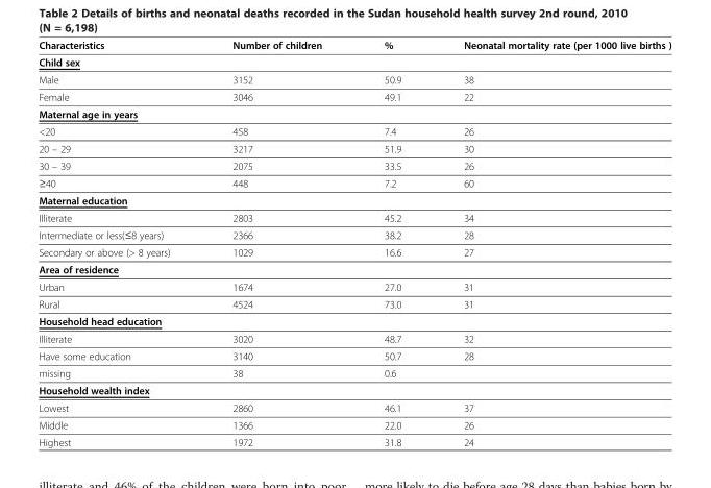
<table><thead><tr><td>Characteristics</td><td>Number of children</td><td>%</td><td>Neonatal mortality rate (per 1000 live births )</td></tr></thead><tbody><tr><td colspan="4">Child sex</td></tr><tr><td>Male</td><td>3152</td><td>50.9</td><td>38</td></tr><tr><td>Female</td><td>3046</td><td>49.1</td><td>22</td></tr><tr><td colspan="4">Maternal age in years</td></tr><tr><td>&lt;20</td><td>458</td><td>7.4</td><td>26</td></tr><tr><td>20 – 29</td><td>3217</td><td>51.9</td><td>30</td></tr><tr><td>30 – 39</td><td>2075</td><td>33.5</td><td>26</td></tr><tr><td>≥40</td><td>448</td><td>7.2</td><td>60</td></tr><tr><td colspan="4">Maternal education</td></tr><tr><td>Illiterate</td><td>2803</td><td>45.2</td><td>34</td></tr><tr><td>Intermediate or less(≤8 years)</td><td>2366</td><td>38.2</td><td>28</td></tr><tr><td>Secondary or above (&gt; 8 years)</td><td>1029</td><td>16.6</td><td>27</td></tr><tr><td colspan="4">Area of residence</td></tr><tr><td>Urban</td><td>1674</td><td>27.0</td><td>31</td></tr><tr><td>Rural</td><td>4524</td><td>73.0</td><td>31</td></tr><tr><td colspan="4">Household head education</td></tr><tr><td>Illiterate</td><td>3020</td><td>48.7</td><td>32</td></tr><tr><td>Have some education</td><td>3140</td><td>50.7</td><td>28</td></tr><tr><td>missing</td><td>38</td><td>0.6</td><td></td></tr><tr><td colspan="4">Household wealth index</td></tr><tr><td>Lowest</td><td>2860</td><td>46.1</td><td>37</td></tr><tr><td>Middle</td><td>1366</td><td>22.0</td><td>26</td></tr><tr><td>Highest</td><td>1972</td><td>31.8</td><td>24</td></tr></tbody></table>